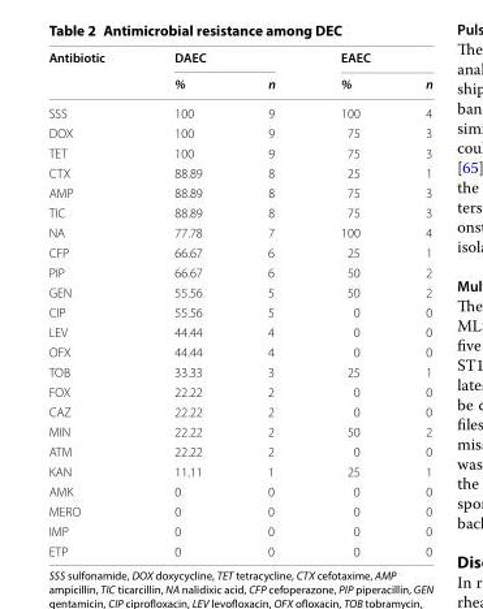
<table><thead><tr><td rowspan="2">Antibiotic</td><td colspan="2">DAEC</td><td colspan="2">EAEC</td></tr><tr><td>%</td><td>n</td><td>%</td><td>n</td></tr></thead><tbody><tr><td>SSS</td><td>100</td><td>9</td><td>100</td><td>4</td></tr><tr><td>DOX</td><td>100</td><td>9</td><td>75</td><td>3</td></tr><tr><td>TET</td><td>100</td><td>9</td><td>75</td><td>3</td></tr><tr><td>CTX</td><td>88.89</td><td>8</td><td>25</td><td>1</td></tr><tr><td>AMP</td><td>88.89</td><td>8</td><td>75</td><td>3</td></tr><tr><td>TIC</td><td>88.89</td><td>8</td><td>75</td><td>3</td></tr><tr><td>NA</td><td>77.78</td><td>7</td><td>100</td><td>4</td></tr><tr><td>CFP</td><td>66.67</td><td>6</td><td>25</td><td>1</td></tr><tr><td>PIP</td><td>66.67</td><td>6</td><td>50</td><td>2</td></tr><tr><td>GEN</td><td>55.56</td><td>5</td><td>50</td><td>2</td></tr><tr><td>CIP</td><td>55.56</td><td>5</td><td>0</td><td>0</td></tr><tr><td>LEV</td><td>44.44</td><td>4</td><td>0</td><td>0</td></tr><tr><td>OFX</td><td>44.44</td><td>4</td><td>0</td><td>0</td></tr><tr><td>TOB</td><td>33.33</td><td>3</td><td>25</td><td>1</td></tr><tr><td>FOX</td><td>22.22</td><td>2</td><td>0</td><td>0</td></tr><tr><td>CAZ</td><td>22.22</td><td>2</td><td>0</td><td>0</td></tr><tr><td>MIN</td><td>22.22</td><td>2</td><td>50</td><td>2</td></tr><tr><td>ATM</td><td>22.22</td><td>2</td><td>0</td><td>0</td></tr><tr><td>KAN</td><td>11.11</td><td>1</td><td>25</td><td>1</td></tr><tr><td>AMK</td><td>0</td><td>0</td><td>0</td><td>0</td></tr><tr><td>MERO</td><td>0</td><td>0</td><td>0</td><td>0</td></tr><tr><td>IMP</td><td>0</td><td>0</td><td>0</td><td>0</td></tr><tr><td>ETP</td><td>0</td><td>0</td><td>0</td><td>0</td></tr></tbody></table>